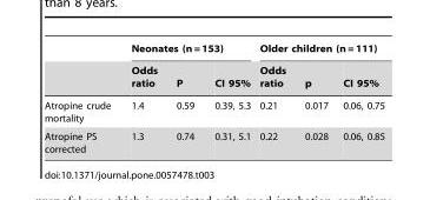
<table><thead><tr><td rowspan="2"></td><td colspan="3">Neonates (n = 153)</td><td colspan="3">Older children (n = 111)</td></tr><tr><td>Odds ratio</td><td>P</td><td>CI 95%</td><td>Odds ratio</td><td>p</td><td>CI 95%</td></tr></thead><tbody><tr><td>Atropine crude mortality</td><td>1.4</td><td>0.59</td><td>0.39, 5.3</td><td>0.21</td><td>0.017</td><td>0.06, 0.75</td></tr><tr><td>Atropine PS corrected</td><td>1.3</td><td>0.74</td><td>0.31, 5.1</td><td>0.22</td><td>0.028</td><td>0.06, 0.85</td></tr></tbody></table>